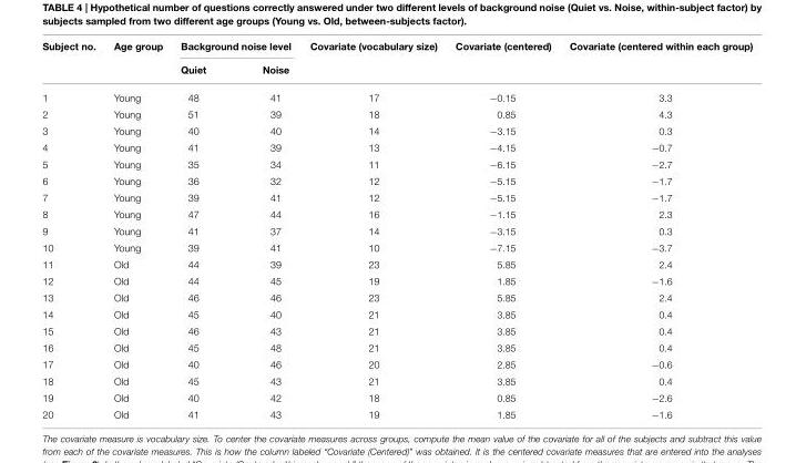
<table><thead><tr><td rowspan="2">Subject no.</td><td rowspan="2">Age group</td><td colspan="2">Background noise level</td><td rowspan="2">Covariate (vocabulary size)</td><td rowspan="2">Covariate (centered)</td><td rowspan="2">Covariate (centered within each group)</td></tr><tr><td>Quiet</td><td>Noise</td></tr></thead><tbody><tr><td>1</td><td>Young</td><td>48</td><td>41</td><td>17</td><td>−0.15</td><td>3.3</td></tr><tr><td>2</td><td>Young</td><td>51</td><td>39</td><td>18</td><td>0.85</td><td>4.3</td></tr><tr><td>3</td><td>Young</td><td>40</td><td>40</td><td>14</td><td>−3.15</td><td>0.3</td></tr><tr><td>4</td><td>Young</td><td>41</td><td>39</td><td>13</td><td>−4.15</td><td>−0.7</td></tr><tr><td>5</td><td>Young</td><td>35</td><td>34</td><td>11</td><td>−6.15</td><td>−2.7</td></tr><tr><td>6</td><td>Young</td><td>36</td><td>32</td><td>12</td><td>−5.15</td><td>−1.7</td></tr><tr><td>7</td><td>Young</td><td>39</td><td>41</td><td>12</td><td>−5.15</td><td>−1.7</td></tr><tr><td>8</td><td>Young</td><td>47</td><td>44</td><td>16</td><td>−1.15</td><td>2.3</td></tr><tr><td>9</td><td>Young</td><td>41</td><td>37</td><td>14</td><td>−3.15</td><td>0.3</td></tr><tr><td>10</td><td>Young</td><td>39</td><td>41</td><td>10</td><td>−7.15</td><td>−3.7</td></tr><tr><td>11</td><td>Old</td><td>44</td><td>39</td><td>23</td><td>5.85</td><td>2.4</td></tr><tr><td>12</td><td>Old</td><td>44</td><td>45</td><td>19</td><td>1.85</td><td>−1.6</td></tr><tr><td>13</td><td>Old</td><td>46</td><td>46</td><td>23</td><td>5.85</td><td>2.4</td></tr><tr><td>14</td><td>Old</td><td>45</td><td>40</td><td>21</td><td>3.85</td><td>0.4</td></tr><tr><td>15</td><td>Old</td><td>46</td><td>43</td><td>21</td><td>3.85</td><td>0.4</td></tr><tr><td>16</td><td>Old</td><td>45</td><td>48</td><td>21</td><td>3.85</td><td>0.4</td></tr><tr><td>17</td><td>Old</td><td>40</td><td>46</td><td>20</td><td>2.85</td><td>−0.6</td></tr><tr><td>18</td><td>Old</td><td>45</td><td>43</td><td>21</td><td>3.85</td><td>0.4</td></tr><tr><td>19</td><td>Old</td><td>40</td><td>42</td><td>18</td><td>0.85</td><td>−2.6</td></tr><tr><td>20</td><td>Old</td><td>41</td><td>43</td><td>19</td><td>1.85</td><td>−1.6</td></tr></tbody></table>